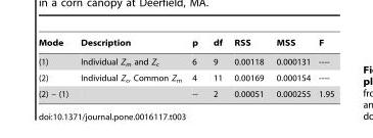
<table><thead><tr><td>Mode</td><td>Description</td><td>p</td><td>df</td><td>RSS</td><td>MSS</td><td>F</td></tr></thead><tbody><tr><td>(1)</td><td>Individual Z<sub>m</sub> and Z<sub>c</sub></td><td>6</td><td>9</td><td>0.00118</td><td>0.000131</td><td>----</td></tr><tr><td>(2)</td><td>Individual Z<sub>c</sub>, Common Z<sub>m</sub></td><td>4</td><td>11</td><td>0.00169</td><td>0.000154</td><td>----</td></tr><tr><td>(2) – (1)</td><td></td><td>--</td><td>2</td><td>0.00051</td><td>0.000255</td><td>1.95</td></tr></tbody></table>